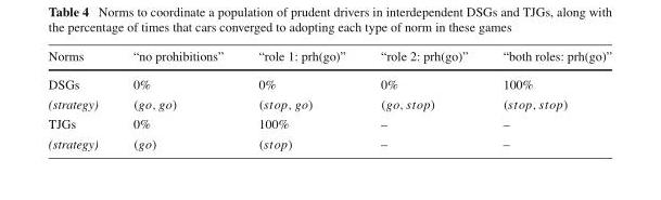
<table><thead><tr><td>Norms</td><td>“no prohibitions”</td><td>“role 1: prh(go)”</td><td>“role 2: prh(go)”</td><td>“both roles: prh(go)”</td></tr></thead><tbody><tr><td>DSGs</td><td>0%</td><td>0%</td><td>0%</td><td>100%</td></tr><tr><td>(strategy)</td><td>(go, go)</td><td>(stop, go)</td><td>(go, stop)</td><td>(stop, stop)</td></tr><tr><td>TJGs</td><td>0%</td><td>100%</td><td>–</td><td>–</td></tr><tr><td>(strategy)</td><td>(go)</td><td>(stop)</td><td>–</td><td>–</td></tr></tbody></table>